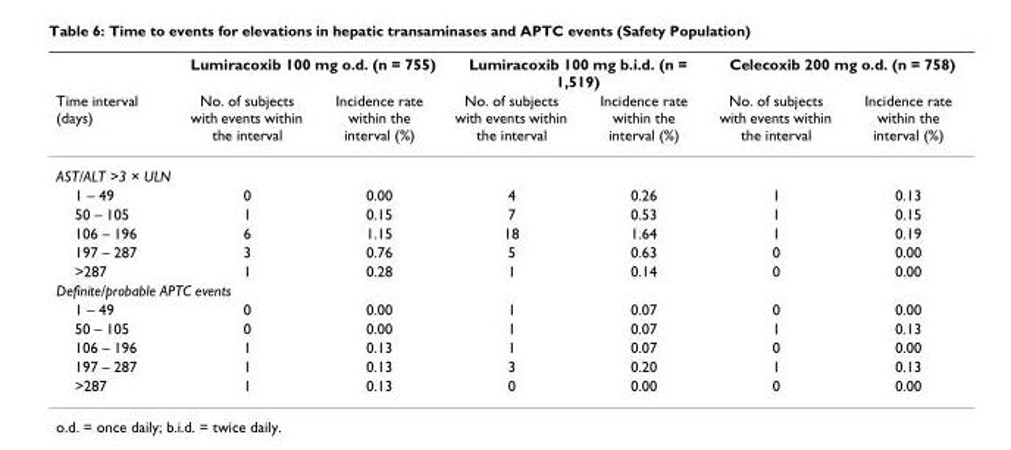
<table><thead><tr><td rowspan="2">Time interval (days)</td><td colspan="2">Lumiracoxib 100 mg o.d. (n = 755)</td><td colspan="2">Lumiracoxib 100 mg b.i.d. (n = 1,519)</td><td colspan="2">Celecoxib 200 mg o.d. (n = 758)</td></tr><tr><td>No. of subjects with events within the interval</td><td>Incidence rate within the interval (%)</td><td>No. of subjects with events within the interval</td><td>Incidence rate within the interval (%)</td><td>No. of subjects with events within the interval</td><td>Incidence rate within the interval (%)</td></tr></thead><tbody><tr><td colspan="7">AST/ALT &gt;3 × ULN</td></tr><tr><td>1 – 49</td><td>0</td><td>0.00</td><td>4</td><td>0.26</td><td>1</td><td>0.13</td></tr><tr><td>50 – 105</td><td>1</td><td>0.15</td><td>7</td><td>0.53</td><td>1</td><td>0.15</td></tr><tr><td>106 – 196</td><td>6</td><td>1.15</td><td>18</td><td>1.64</td><td>1</td><td>0.19</td></tr><tr><td>197 – 287</td><td>3</td><td>0.76</td><td>5</td><td>0.63</td><td>0</td><td>0.00</td></tr><tr><td>&gt;287</td><td>1</td><td>0.28</td><td>1</td><td>0.14</td><td>0</td><td>0.00</td></tr><tr><td colspan="7">Definite/probable APTC events</td></tr><tr><td>1 – 49</td><td>0</td><td>0.00</td><td>1</td><td>0.07</td><td>0</td><td>0.00</td></tr><tr><td>50 – 105</td><td>0</td><td>0.00</td><td>1</td><td>0.07</td><td>1</td><td>0.13</td></tr><tr><td>106 – 196</td><td>1</td><td>0.13</td><td>1</td><td>0.07</td><td>0</td><td>0.00</td></tr><tr><td>197 – 287</td><td>1</td><td>0.13</td><td>3</td><td>0.20</td><td>1</td><td>0.13</td></tr><tr><td>&gt;287</td><td>1</td><td>0.13</td><td>0</td><td>0.00</td><td>0</td><td>0.00</td></tr></tbody></table>